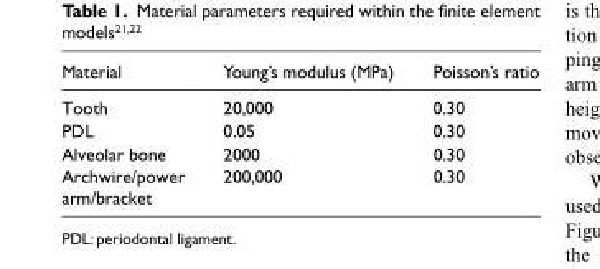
<table><thead><tr><td>Material</td><td>Young’s modulus (MPa)</td><td>Poisson’s ratio</td></tr></thead><tbody><tr><td>Tooth</td><td>20,000</td><td>0.30</td></tr><tr><td>PDL</td><td>0.05</td><td>0.30</td></tr><tr><td>Alveolar bone</td><td>2000</td><td>0.30</td></tr><tr><td>Archwire/power arm/bracket</td><td>200,000</td><td>0.30</td></tr></tbody></table>